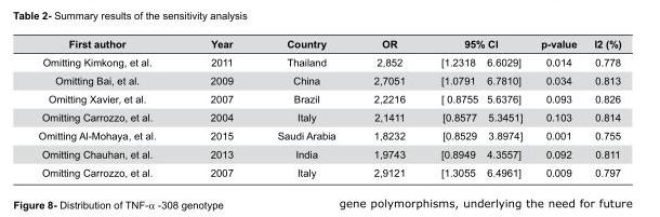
<table><thead><tr><td>First author</td><td>Year</td><td>Country</td><td>OR</td><td>95% CI</td><td>p-value</td><td>I2 (%)</td></tr></thead><tbody><tr><td>Omitting Kimkong, et al.</td><td>2011</td><td>Thailand</td><td>2,852</td><td>[1.2318 6.6029]</td><td>0.014</td><td>0.778</td></tr><tr><td>Omitting Bai, et al.</td><td>2009</td><td>China</td><td>2,7051</td><td>[1.0791 6.7810]</td><td>0.034</td><td>0.813</td></tr><tr><td>Omitting Xavier, et al.</td><td>2007</td><td>Brazil</td><td>2,2216</td><td>[ 0.8755 5.6376]</td><td>0.093</td><td>0.826</td></tr><tr><td>Omitting Carrozzo, et al.</td><td>2004</td><td>Italy</td><td>2,1411</td><td>[0.8577 5.3451]</td><td>0.103</td><td>0.814</td></tr><tr><td>Omitting Al-Mohaya, et al.</td><td>2015</td><td>Saudi Arabia</td><td>1,8232</td><td>[0.8529 3.8974]</td><td>0.001</td><td>0.755</td></tr><tr><td>Omitting Chauhan, et al.</td><td>2013</td><td>India</td><td>1,9743</td><td>[0.8949 4.3557]</td><td>0.092</td><td>0.811</td></tr><tr><td>Omitting Carrozzo, et al.</td><td>2007</td><td>Italy</td><td>2,9121</td><td>[1.3055 6.4961]</td><td>0.009</td><td>0.797</td></tr></tbody></table>